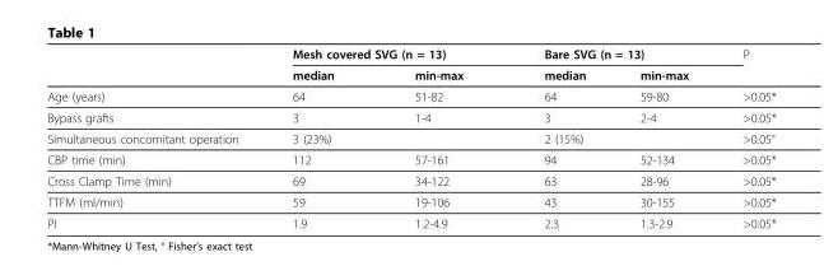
<table><thead><tr><td rowspan="2"></td><td colspan="2">Mesh covered SVG (n = 13)</td><td colspan="2">Bare SVG (n = 13)</td><td rowspan="2">P</td></tr><tr><td>median</td><td>min-max</td><td>median</td><td>min-max</td></tr></thead><tbody><tr><td>Age (years)</td><td>64</td><td>51-82</td><td>64</td><td>59-80</td><td>&gt;0.05*</td></tr><tr><td>Bypass grafts</td><td>3</td><td>1-4</td><td>3</td><td>2-4</td><td>&gt;0.05*</td></tr><tr><td>Simultaneous concomitant operation</td><td colspan="2">3 (23%)</td><td colspan="2">2 (15%)</td><td>&gt;0.05°</td></tr><tr><td>CBP time (min)</td><td>112</td><td>57-161</td><td>94</td><td>52-134</td><td>&gt;0.05*</td></tr><tr><td>Cross Clamp Time (min)</td><td>69</td><td>34-122</td><td>63</td><td>28-96</td><td>&gt;0.05*</td></tr><tr><td>TTFM (ml/min)</td><td>59</td><td>19-106</td><td>43</td><td>30-155</td><td>&gt;0.05*</td></tr><tr><td>PI</td><td>1.9</td><td>1.2-4.9</td><td>2.3</td><td>1.3-2.9</td><td>&gt;0.05*</td></tr></tbody></table>